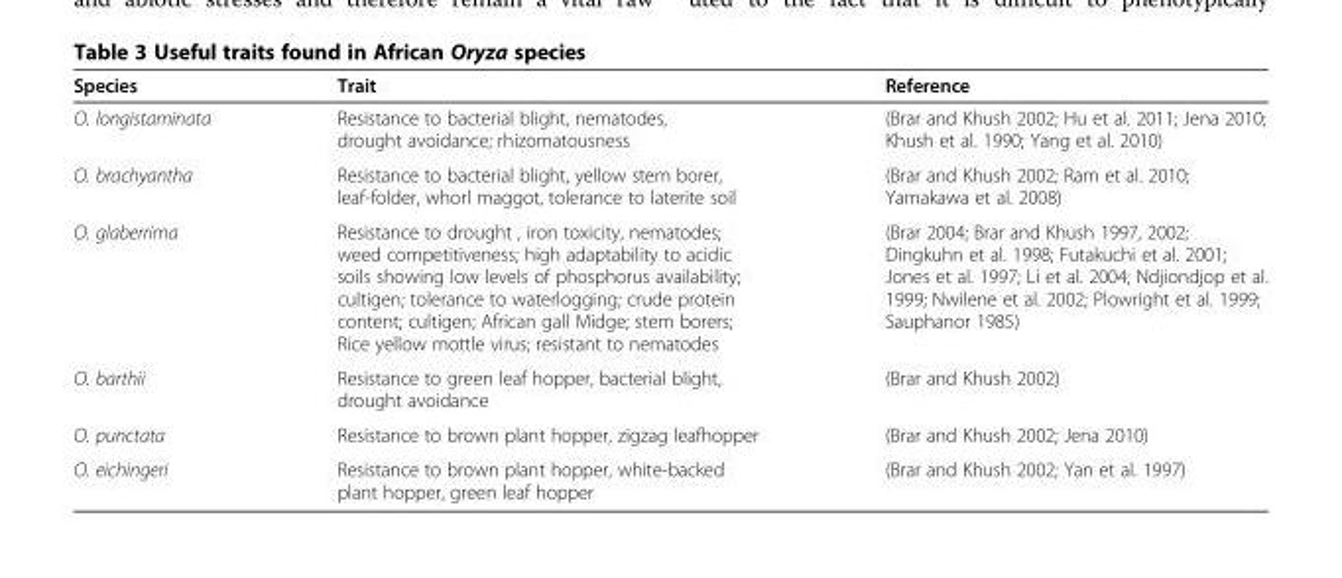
<table><thead><tr><td>Species</td><td>Trait</td><td>Reference</td></tr></thead><tbody><tr><td>O. longistaminata</td><td>Resistance to bacterial blight, nematodes, drought avoidance; rhizomatousness</td><td>(Brar and Khush 2002; Hu et al. 2011; Jena 2010; Khush et al. 1990; Yang et al. 2010)</td></tr><tr><td>O. brachyantha</td><td>Resistance to bacterial blight, yellow stem borer, leaf-folder, whorl maggot, tolerance to laterite soil</td><td>(Brar and Khush 2002; Ram et al. 2010; Yamakawa et al. 2008)</td></tr><tr><td>O. glaberrima</td><td>Resistance to drought , iron toxicity, nematodes; weed competitiveness; high adaptability to acidic soils showing low levels of phosphorus availability; cultigen; tolerance to waterlogging; crude protein content; cultigen; African gall Midge; stem borers; Rice yellow mottle virus; resistant to nematodes</td><td>(Brar 2004; Brar and Khush 1997, 2002; Dingkuhn et al. 1998; Futakuchi et al. 2001; Jones et al. 1997; Li et al. 2004; Ndjiondjop et al. 1999; Nwilene et al. 2002; Plowright et al. 1999; Sauphanor 1985)</td></tr><tr><td>O. barthii</td><td>Resistance to green leaf hopper, bacterial blight, drought avoidance</td><td>(Brar and Khush 2002)</td></tr><tr><td>O. punctata</td><td>Resistance to brown plant hopper, zigzag leafhopper</td><td>(Brar and Khush 2002; Jena 2010)</td></tr><tr><td>O. eichingeri</td><td>Resistance to brown plant hopper, white-backed plant hopper, green leaf hopper</td><td>(Brar and Khush 2002; Yan et al. 1997)</td></tr></tbody></table>